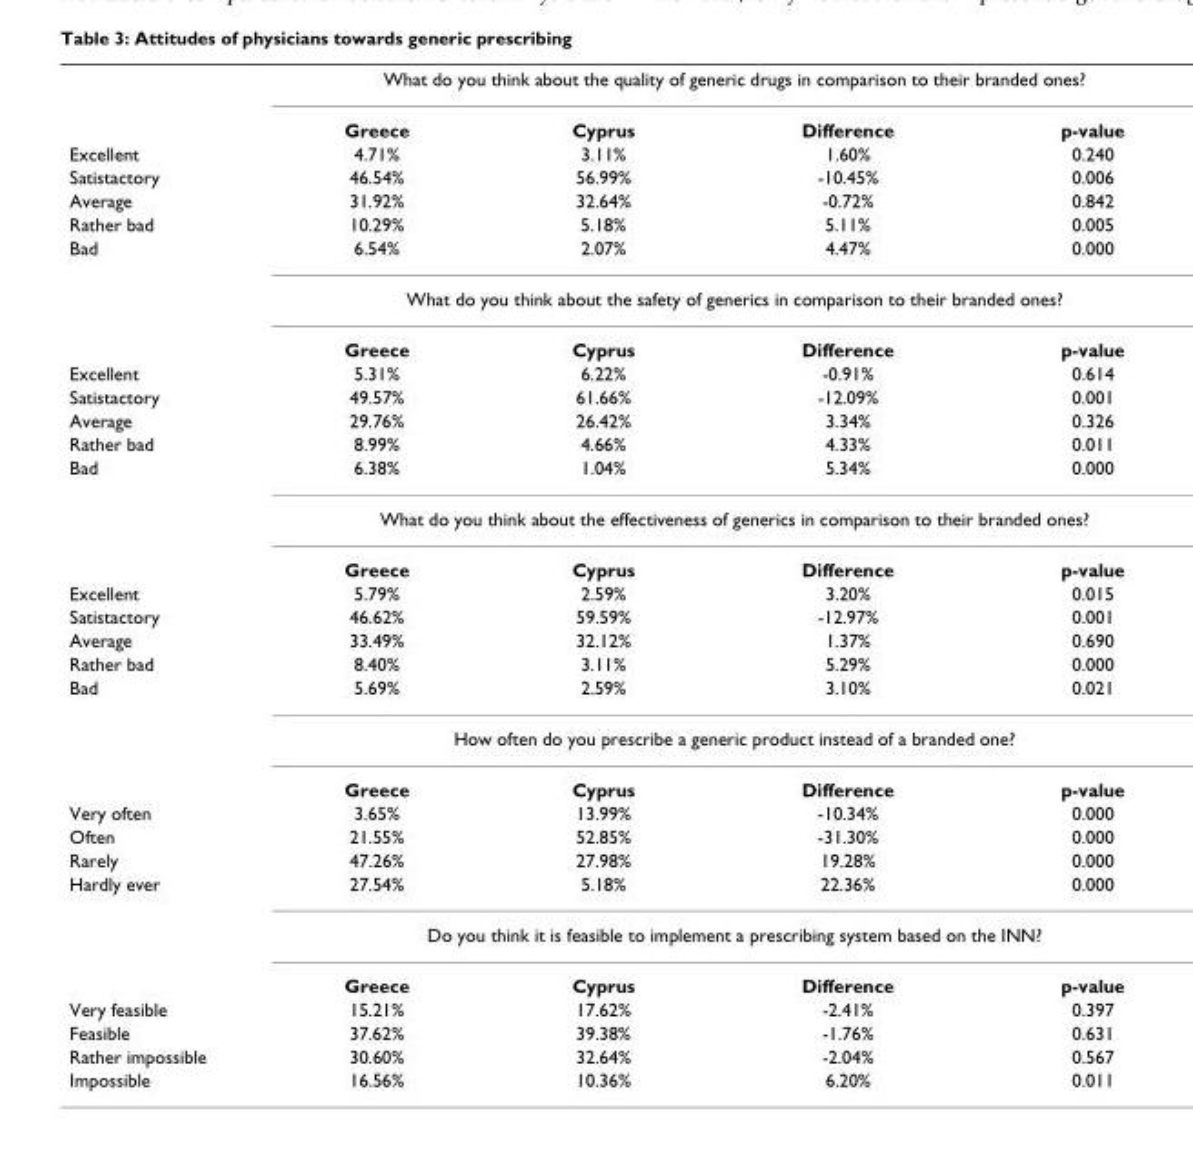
<table><thead><tr><td rowspan="2"></td><td colspan="4">What do you think about the quality of generic drugs in comparison to their branded ones?</td></tr><tr><td>Greece</td><td>Cyprus</td><td>Difference</td><td>p-value</td></tr></thead><tbody><tr><td>Excellent</td><td>4.71%</td><td>3.11%</td><td>1.60%</td><td>0.240</td></tr><tr><td>Satistactory</td><td>46.54%</td><td>56.99%</td><td>-10.45%</td><td>0.006</td></tr><tr><td>Average</td><td>31.92%</td><td>32.64%</td><td>-0.72%</td><td>0.842</td></tr><tr><td>Rather bad</td><td>10.29%</td><td>5.18%</td><td>5.11%</td><td>0.005</td></tr><tr><td rowspan="3">Bad</td><td>6.54%</td><td>2.07%</td><td>4.47%</td><td>0.000</td></tr><tr><td colspan="4">What do you think about the safety of generics in comparison to their branded ones?</td></tr><tr><td>Greece</td><td>Cyprus</td><td>Difference</td><td>p-value</td></tr><tr><td>Excellent</td><td>5.31%</td><td>6.22%</td><td>-0.91%</td><td>0.614</td></tr><tr><td>Satistactory</td><td>49.57%</td><td>61.66%</td><td>-12.09%</td><td>0.001</td></tr><tr><td>Average</td><td>29.76%</td><td>26.42%</td><td>3.34%</td><td>0.326</td></tr><tr><td>Rather bad</td><td>8.99%</td><td>4.66%</td><td>4.33%</td><td>0.011</td></tr><tr><td rowspan="3">Bad</td><td>6.38%</td><td>1.04%</td><td>5.34%</td><td>0.000</td></tr><tr><td colspan="4">What do you think about the effectiveness of generics in comparison to their branded ones?</td></tr><tr><td>Greece</td><td>Cyprus</td><td>Difference</td><td>p-value</td></tr><tr><td>Excellent</td><td>5.79%</td><td>2.59%</td><td>3.20%</td><td>0.015</td></tr><tr><td>Satistactory</td><td>46.62%</td><td>59.59%</td><td>-12.97%</td><td>0.001</td></tr><tr><td>Average</td><td>33.49%</td><td>32.12%</td><td>1.37%</td><td>0.690</td></tr><tr><td>Rather bad</td><td>8.40%</td><td>3.11%</td><td>5.29%</td><td>0.000</td></tr><tr><td rowspan="3">Bad</td><td>5.69%</td><td>2.59%</td><td>3.10%</td><td>0.021</td></tr><tr><td colspan="4">How often do you prescribe a generic product instead of a branded one?</td></tr><tr><td>Greece</td><td>Cyprus</td><td>Difference</td><td>p-value</td></tr><tr><td>Very often</td><td>3.65%</td><td>13.99%</td><td>-10.34%</td><td>0.000</td></tr><tr><td>Often</td><td>21.55%</td><td>52.85%</td><td>-31.30%</td><td>0.000</td></tr><tr><td>Rarely</td><td>47.26%</td><td>27.98%</td><td>19.28%</td><td>0.000</td></tr><tr><td rowspan="3">Hardly ever</td><td>27.54%</td><td>5.18%</td><td>22.36%</td><td>0.000</td></tr><tr><td colspan="4">Do you think it is feasible to implement a prescribing system based on the INN?</td></tr><tr><td>Greece</td><td>Cyprus</td><td>Difference</td><td>p-value</td></tr><tr><td>Very feasible</td><td>15.21%</td><td>17.62%</td><td>-2.41%</td><td>0.397</td></tr><tr><td>Feasible</td><td>37.62%</td><td>39.38%</td><td>-1.76%</td><td>0.631</td></tr><tr><td>Rather impossible</td><td>30.60%</td><td>32.64%</td><td>-2.04%</td><td>0.567</td></tr><tr><td>Impossible</td><td>16.56%</td><td>10.36%</td><td>6.20%</td><td>0.011</td></tr></tbody></table>